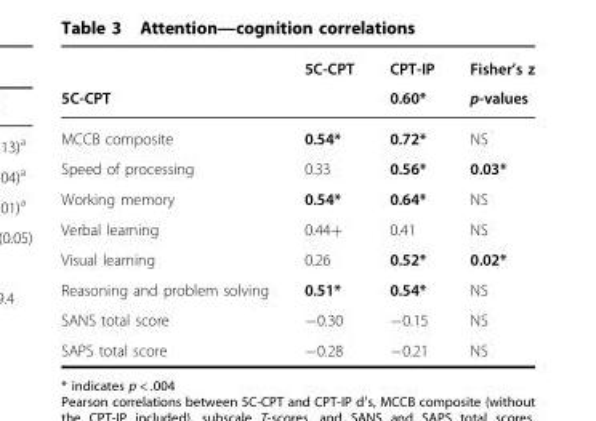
<table><thead><tr><td rowspan="2">5C-CPT</td><td rowspan="2">5C-CPT</td><td rowspan="2">CPT-IP 0.60*</td><td rowspan="2">Fisher’s z p-values</td></tr><tr></tr></thead><tbody><tr><td>MCCB composite</td><td>0.54*</td><td>0.72*</td><td>NS</td></tr><tr><td>Speed of processing</td><td>0.33</td><td>0.56*</td><td>0.03*</td></tr><tr><td>Working memory</td><td>0.54*</td><td>0.64*</td><td>NS</td></tr><tr><td>Verbal learning</td><td>0.44+</td><td>0.41</td><td>NS</td></tr><tr><td>Visual learning</td><td>0.26</td><td>0.52*</td><td>0.02*</td></tr><tr><td>Reasoning and problem solving</td><td>0.51*</td><td>0.54*</td><td>NS</td></tr><tr><td>SANS total score</td><td>−0.30</td><td>−0.15</td><td>NS</td></tr><tr><td>SAPS total score</td><td>−0.28</td><td>−0.21</td><td>NS</td></tr></tbody></table>